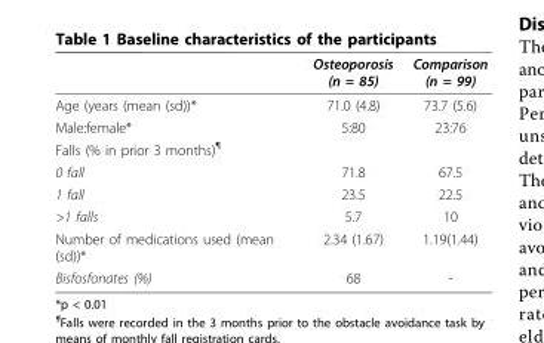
<table><thead><tr><td></td><td>Osteoporosis (n = 85)</td><td>Comparison (n = 99)</td></tr></thead><tbody><tr><td>Age (years (mean (sd))*</td><td>71.0 (4.8)</td><td>73.7 (5.6)</td></tr><tr><td>Male:female*</td><td>5:80</td><td>23:76</td></tr><tr><td colspan="3">Falls (% in prior 3 months)<sup>¶</sup></td></tr><tr><td>0 fall</td><td>71.8</td><td>67.5</td></tr><tr><td>1 fall</td><td>23.5</td><td>22.5</td></tr><tr><td>&gt;1 falls</td><td>5.7</td><td>10</td></tr><tr><td>Number of medications used (mean (sd))*</td><td>2.34 (1.67)</td><td>1.19(1.44)</td></tr><tr><td>Bisfosfonates (%)</td><td>68</td><td>-</td></tr></tbody></table>